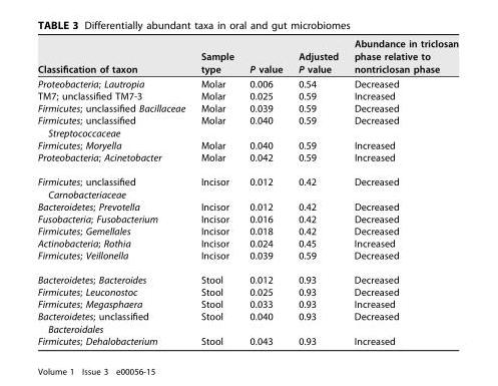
<table><thead><tr><td>Classification of taxon</td><td>Sample type</td><td>P value</td><td>Adjusted P value</td><td>Abundance in triclosan phase relative to nontriclosan phase</td></tr></thead><tbody><tr><td>Proteobacteria; Lautropia</td><td>Molar</td><td>0.006</td><td>0.54</td><td>Decreased</td></tr><tr><td>TM7; unclassified TM7-3</td><td>Molar</td><td>0.025</td><td>0.59</td><td>Increased</td></tr><tr><td>Firmicutes; unclassified Bacillaceae</td><td>Molar</td><td>0.039</td><td>0.59</td><td>Decreased</td></tr><tr><td>Firmicutes; unclassified Streptococcaceae</td><td>Molar</td><td>0.040</td><td>0.59</td><td>Decreased</td></tr><tr><td>Firmicutes; Moryella</td><td>Molar</td><td>0.040</td><td>0.59</td><td>Increased</td></tr><tr><td>Proteobacteria; Acinetobacter</td><td>Molar</td><td>0.042</td><td>0.59</td><td>Increased</td></tr><tr><td>Firmicutes; unclassified Carnobacteriaceae</td><td>Incisor</td><td>0.012</td><td>0.42</td><td>Decreased</td></tr><tr><td>Bacteroidetes; Prevotella</td><td>Incisor</td><td>0.012</td><td>0.42</td><td>Decreased</td></tr><tr><td>Fusobacteria; Fusobacterium</td><td>Incisor</td><td>0.016</td><td>0.42</td><td>Decreased</td></tr><tr><td>Firmicutes; Gemellales</td><td>Incisor</td><td>0.018</td><td>0.42</td><td>Decreased</td></tr><tr><td>Actinobacteria; Rothia</td><td>Incisor</td><td>0.024</td><td>0.45</td><td>Increased</td></tr><tr><td>Firmicutes; Veillonella</td><td>Incisor</td><td>0.039</td><td>0.59</td><td>Decreased</td></tr><tr><td>Bacteroidetes; Bacteroides</td><td>Stool</td><td>0.012</td><td>0.93</td><td>Decreased</td></tr><tr><td>Firmicutes; Leuconostoc</td><td>Stool</td><td>0.025</td><td>0.93</td><td>Decreased</td></tr><tr><td>Firmicutes; Megasphaera</td><td>Stool</td><td>0.033</td><td>0.93</td><td>Increased</td></tr><tr><td>Bacteroidetes; unclassified Bacteroidales</td><td>Stool</td><td>0.040</td><td>0.93</td><td>Decreased</td></tr><tr><td>Firmicutes; Dehalobacterium</td><td>Stool</td><td>0.043</td><td>0.93</td><td>Increased</td></tr></tbody></table>